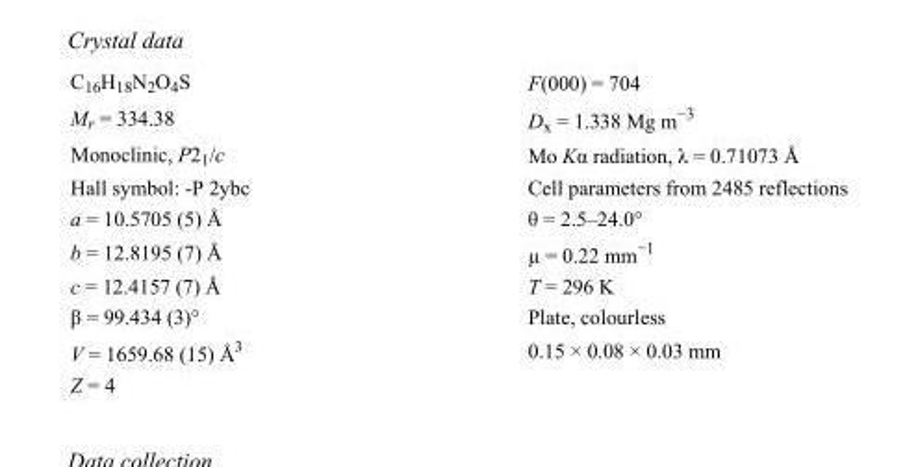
<table><tbody><tr><td>C<sub>16</sub>H<sub>18</sub>N<sub>2</sub>O<sub>4</sub>S</td><td>F(000) = 704</td></tr><tr><td>M<sub>r</sub> = 334.38</td><td>D<sub>x</sub> = 1.338 Mg m<sup>−3</sup></td></tr><tr><td>Monoclinic, P2<sub>1</sub>/c</td><td>Mo Kα radiation, λ = 0.71073 Å</td></tr><tr><td>Hall symbol: -P 2ybc</td><td>Cell parameters from 2485 reflections</td></tr><tr><td>a = 10.5705 (5) Å</td><td>θ = 2.5–24.0°</td></tr><tr><td>b = 12.8195 (7) Å</td><td>µ = 0.22 mm<sup>−1</sup></td></tr><tr><td>c = 12.4157 (7) Å</td><td>T = 296 K</td></tr><tr><td>β = 99.434 (3)°</td><td>Plate, colourless</td></tr><tr><td>V = 1659.68 (15) Å<sup>3</sup></td><td>0.15 × 0.08 × 0.03 mm</td></tr><tr><td>Z = 4</td><td></td></tr></tbody></table>